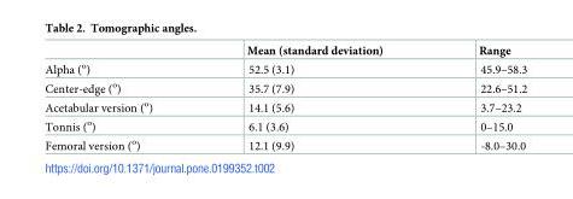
<table><thead><tr><td></td><td>Mean (standard deviation)</td><td>Range</td></tr></thead><tbody><tr><td>Alpha (<sup>o</sup>)</td><td>52.5 (3.1)</td><td>45.9–58.3</td></tr><tr><td>Center-edge (<sup>o</sup>)</td><td>35.7 (7.9)</td><td>22.6–51.2</td></tr><tr><td>Acetabular version (<sup>o</sup>)</td><td>14.1 (5.6)</td><td>3.7–23.2</td></tr><tr><td>Tonnis (<sup>o</sup>)</td><td>6.1 (3.6)</td><td>0–15.0</td></tr><tr><td>Femoral version (<sup>o</sup>)</td><td>12.1 (9.9)</td><td>-8.0–30.0</td></tr></tbody></table>